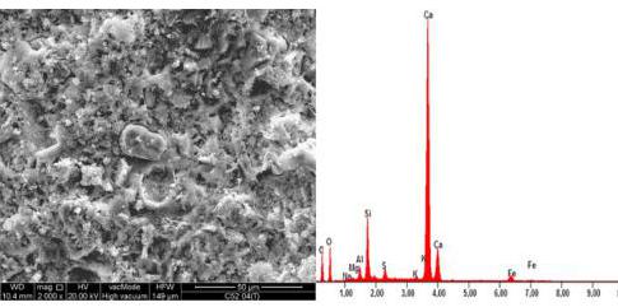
<table><thead><tr><td rowspan="2">Oxide</td><td colspan="2">Percentage of Oxides (Percentage Difference with Respect to C52) [%]</td></tr><tr><td>C52</td><td>C52MS</td></tr></thead><tbody><tr><td>Na<sub>2</sub>O</td><td>0.79 (−)</td><td>0.59 (−25.6)</td></tr><tr><td>MgO</td><td>1.06 (−)</td><td>1.18 (12.0)</td></tr><tr><td>Al<sub>2</sub>O<sub>5</sub></td><td>6.58 (−)</td><td>4.85 (−26.3)</td></tr><tr><td>SiO<sub>2</sub></td><td>22.87 (−)</td><td>26.80 (17.2)</td></tr><tr><td>SO<sub>3</sub></td><td>3.78 (−)</td><td>4.20 (10.9)</td></tr><tr><td>K<sub>2</sub>O</td><td>0.52 (−)</td><td>0.70 (34.4)</td></tr><tr><td>CaO</td><td>61.30 (−)</td><td>59.12 (−3.6)</td></tr><tr><td>Fe<sub>2</sub>O<sub>3</sub></td><td>3.12 (−)</td><td>2.55 (−18.3)</td></tr><tr><td>Na<sub>2</sub>O</td><td>0.79 (−)</td><td>0.59 (−25.6)</td></tr></tbody></table>